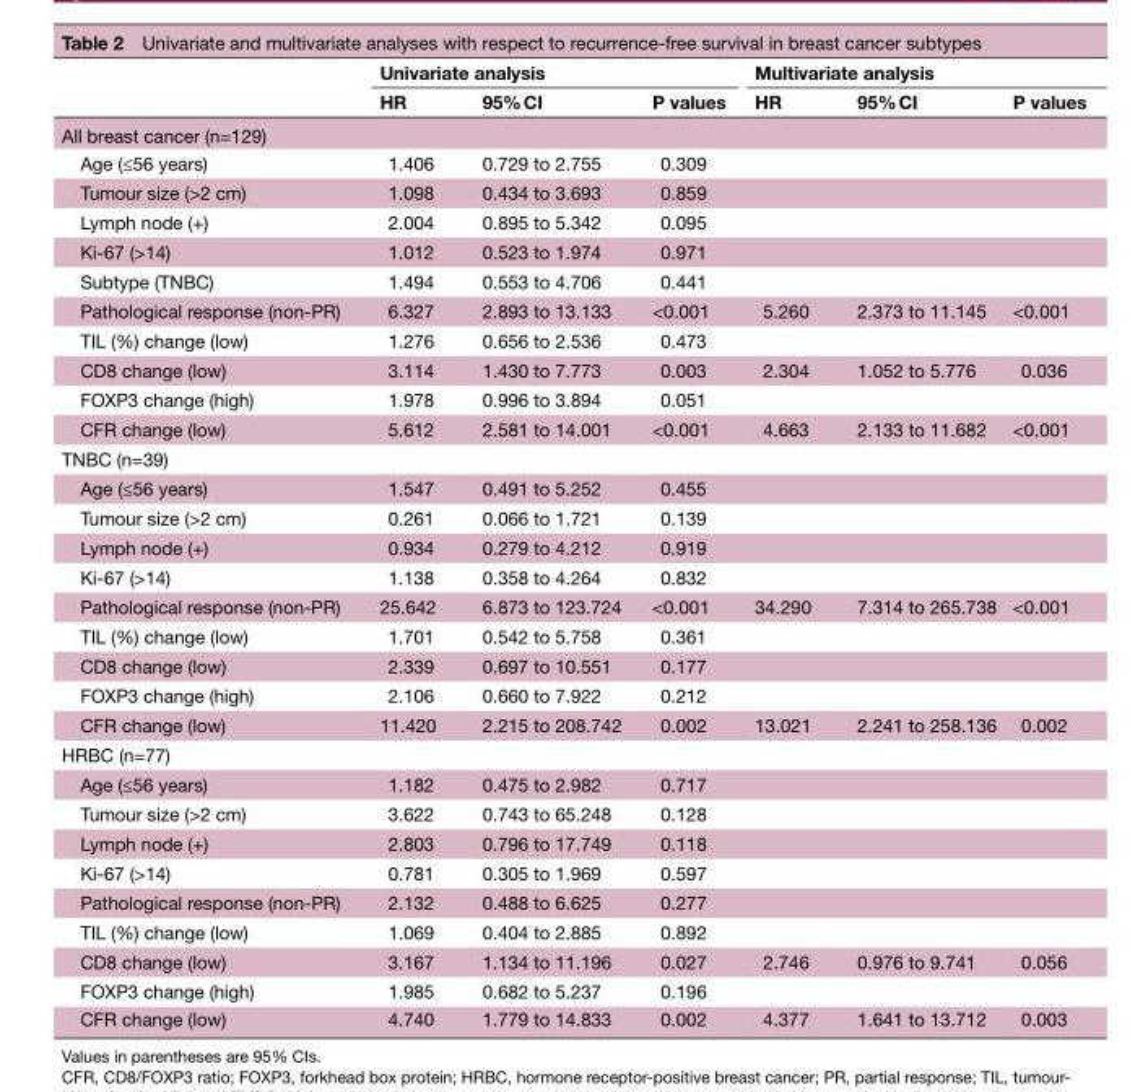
<table><thead><tr><td rowspan="2"></td><td colspan="3">Univariate analysis</td><td colspan="3">Multivariate analysis</td></tr><tr><td>HR</td><td>95% CI</td><td>P values</td><td>HR</td><td>95% CI</td><td>P values</td></tr></thead><tbody><tr><td colspan="7">All breast cancer (n=129)</td></tr><tr><td>Age (≤56 years)</td><td>1.406</td><td>0.729 to 2.755</td><td>0.309</td><td></td><td></td><td></td></tr><tr><td>Tumour size (&gt;2 cm)</td><td>1.098</td><td>0.434 to 3.693</td><td>0.859</td><td></td><td></td><td></td></tr><tr><td>Lymph node (+)</td><td>2.004</td><td>0.895 to 5.342</td><td>0.095</td><td></td><td></td><td></td></tr><tr><td>Ki-67 (&gt;14)</td><td>1.012</td><td>0.523 to 1.974</td><td>0.971</td><td></td><td></td><td></td></tr><tr><td>Subtype (TNBC)</td><td>1.494</td><td>0.553 to 4.706</td><td>0.441</td><td></td><td></td><td></td></tr><tr><td>Pathological response (non-PR)</td><td>6.327</td><td>2.893 to 13.133</td><td>&lt;0.001</td><td>5.260</td><td>2.373 to 11.145</td><td>&lt;0.001</td></tr><tr><td>TIL (%) change (low)</td><td>1.276</td><td>0.656 to 2.536</td><td>0.473</td><td></td><td></td><td></td></tr><tr><td>CD8 change (low)</td><td>3.114</td><td>1.430 to 7.773</td><td>0.003</td><td>2.304</td><td>1.052 to 5.776</td><td>0.036</td></tr><tr><td>FOXP3 change (high)</td><td>1.978</td><td>0.996 to 3.894</td><td>0.051</td><td></td><td></td><td></td></tr><tr><td>CFR change (low)</td><td>5.612</td><td>2.581 to 14.001</td><td>&lt;0.001</td><td>4.663</td><td>2.133 to 11.682</td><td>&lt;0.001</td></tr><tr><td colspan="7">TNBC (n=39)</td></tr><tr><td>Age (≤56 years)</td><td>1.547</td><td>0.491 to 5.252</td><td>0.455</td><td></td><td></td><td></td></tr><tr><td>Tumour size (&gt;2 cm)</td><td>0.261</td><td>0.066 to 1.721</td><td>0.139</td><td></td><td></td><td></td></tr><tr><td>Lymph node (+)</td><td>0.934</td><td>0.279 to 4.212</td><td>0.919</td><td></td><td></td><td></td></tr><tr><td>Ki-67 (&gt;14)</td><td>1.138</td><td>0.358 to 4.264</td><td>0.832</td><td></td><td></td><td></td></tr><tr><td>Pathological response (non-PR)</td><td>25.642</td><td>6.873 to 123.724</td><td>&lt;0.001</td><td>34.290</td><td>7.314 to 265.738</td><td>&lt;0.001</td></tr><tr><td>TIL (%) change (low)</td><td>1.701</td><td>0.542 to 5.758</td><td>0.361</td><td></td><td></td><td></td></tr><tr><td>CD8 change (low)</td><td>2.339</td><td>0.697 to 10.551</td><td>0.177</td><td></td><td></td><td></td></tr><tr><td>FOXP3 change (high)</td><td>2.106</td><td>0.660 to 7.922</td><td>0.212</td><td></td><td></td><td></td></tr><tr><td>CFR change (low)</td><td>11.420</td><td>2.215 to 208.742</td><td>0.002</td><td>13.021</td><td>2.241 to 258.136</td><td>0.002</td></tr><tr><td colspan="7">HRBC (n=77)</td></tr><tr><td>Age (≤56 years)</td><td>1.182</td><td>0.475 to 2.982</td><td>0.717</td><td></td><td></td><td></td></tr><tr><td>Tumour size (&gt;2 cm)</td><td>3.622</td><td>0.743 to 65.248</td><td>0.128</td><td></td><td></td><td></td></tr><tr><td>Lymph node (+)</td><td>2.803</td><td>0.796 to 17.749</td><td>0.118</td><td></td><td></td><td></td></tr><tr><td>Ki-67 (&gt;14)</td><td>0.781</td><td>0.305 to 1.969</td><td>0.597</td><td></td><td></td><td></td></tr><tr><td>Pathological response (non-PR)</td><td>2.132</td><td>0.488 to 6.625</td><td>0.277</td><td></td><td></td><td></td></tr><tr><td>TIL (%) change (low)</td><td>1.069</td><td>0.404 to 2.885</td><td>0.892</td><td></td><td></td><td></td></tr><tr><td>CD8 change (low)</td><td>3.167</td><td>1.134 to 11.196</td><td>0.027</td><td>2.746</td><td>0.976 to 9.741</td><td>0.056</td></tr><tr><td>FOXP3 change (high)</td><td>1.985</td><td>0.682 to 5.237</td><td>0.196</td><td></td><td></td><td></td></tr><tr><td>CFR change (low)</td><td>4.740</td><td>1.779 to 14.833</td><td>0.002</td><td>4.377</td><td>1.641 to 13.712</td><td>0.003</td></tr></tbody></table>